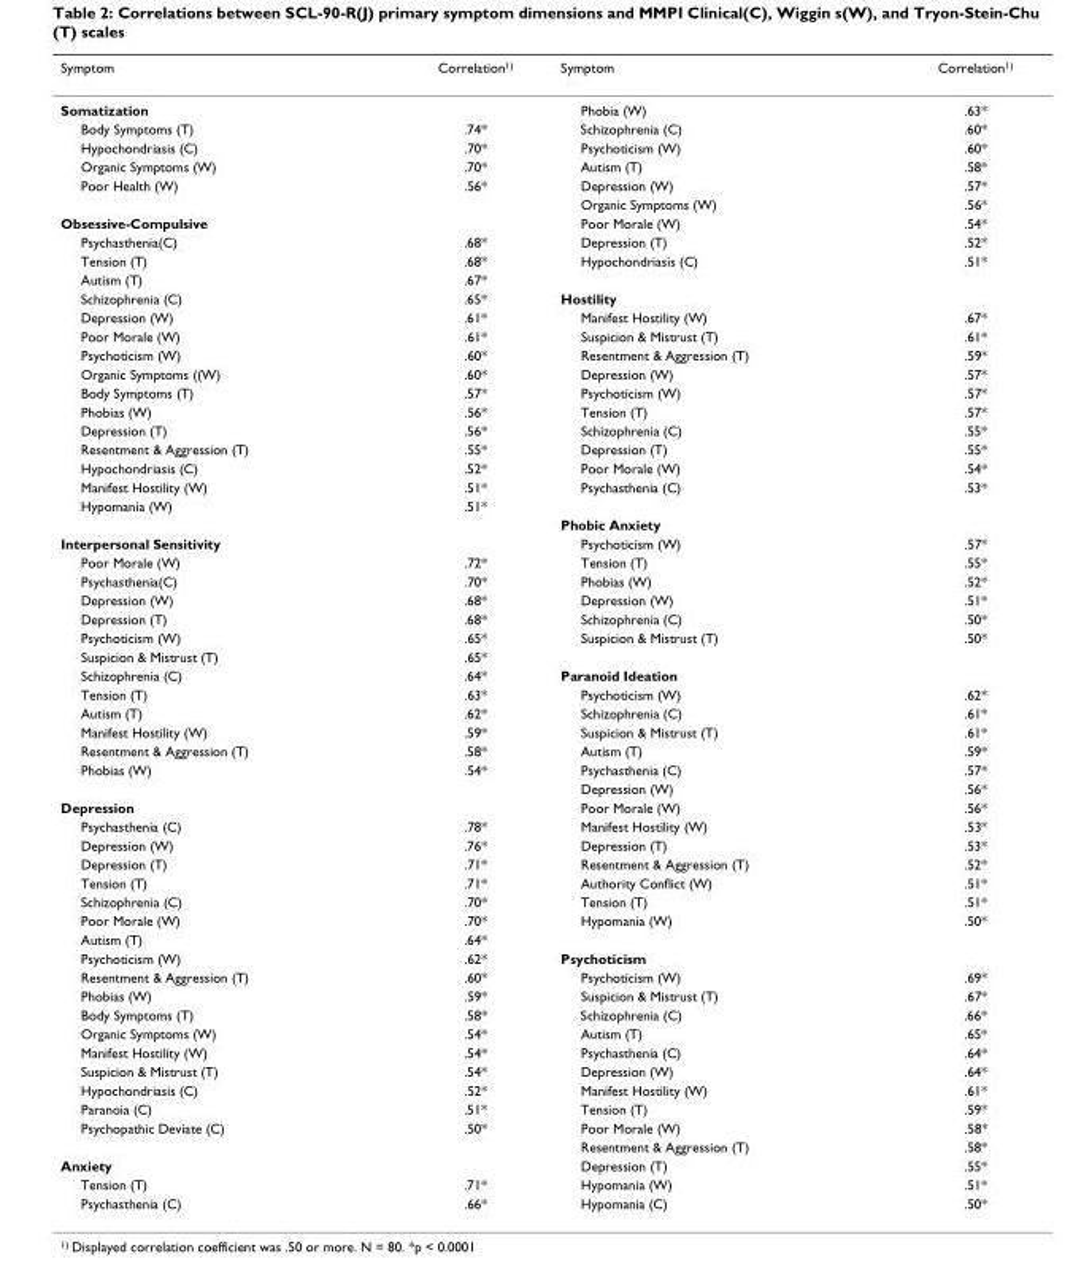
<table><thead><tr><td>Symptom</td><td>Correlation<sup>1)</sup></td><td>Symptom</td><td>Correlation<sup>1)</sup></td></tr></thead><tbody><tr><td>Somatization</td><td></td><td>Phobia (W)</td><td>.63*</td></tr><tr><td>Body Symptoms (T)</td><td>.74*</td><td>Schizophrenia (C)</td><td>.60*</td></tr><tr><td>Hypochondriasis (C)</td><td>.70*</td><td>Psychoticism (W)</td><td>.60*</td></tr><tr><td>Organic Symptoms (W)</td><td>.70*</td><td>Autism (T)</td><td>.58*</td></tr><tr><td rowspan="2">Poor Health (W)</td><td>.56*</td><td>Depression (W)</td><td>.57*</td></tr><tr><td></td><td>Organic Symptoms (W)</td><td>.56*</td></tr><tr><td>Obsessive-Compulsive</td><td></td><td>Poor Morale (W)</td><td>.54*</td></tr><tr><td>Psychasthenia(C)</td><td>.68*</td><td>Depression (T)</td><td>.52*</td></tr><tr><td>Tension (T)</td><td>.68*</td><td>Hypochondriasis (C)</td><td>.51*</td></tr><tr><td>Autism (T)</td><td>.67*</td><td></td><td></td></tr><tr><td>Schizophrenia (C)</td><td>.65*</td><td>Hostility</td><td></td></tr><tr><td>Depression (W)</td><td>.61*</td><td>Manifest Hostility (W)</td><td>.67*</td></tr><tr><td>Poor Morale (W)</td><td>.61*</td><td>Suspicion &amp; Mistrust (T)</td><td>.61*</td></tr><tr><td>Psychoticism (W)</td><td>.60*</td><td>Resentment &amp; Aggression (T)</td><td>.59*</td></tr><tr><td>Organic Symptoms ((W)</td><td>.60*</td><td>Depression (W)</td><td>.57*</td></tr><tr><td>Body Symptoms (T)</td><td>.57*</td><td>Psychoticism (W)</td><td>.57*</td></tr><tr><td>Phobias (W)</td><td>.56*</td><td>Tension (T)</td><td>.57*</td></tr><tr><td>Depression (T)</td><td>.56*</td><td>Schizophrenia (C)</td><td>.55*</td></tr><tr><td>Resentment &amp; Aggression (T)</td><td>.55*</td><td>Depression (T)</td><td>.55*</td></tr><tr><td>Hypochondriasis (C)</td><td>.52*</td><td>Poor Morale (W)</td><td>.54*</td></tr><tr><td>Manifest Hostility (W)</td><td>.51*</td><td>Psychasthenia (C)</td><td>.53*</td></tr><tr><td rowspan="2">Hypomania (W)</td><td>.51*</td><td></td><td></td></tr><tr><td></td><td>Phobic Anxiety</td><td></td></tr><tr><td>Interpersonal Sensitivity</td><td></td><td>Psychoticism (W)</td><td>.57*</td></tr><tr><td>Poor Morale (W)</td><td>.72*</td><td>Tension (T)</td><td>.55*</td></tr><tr><td>Psychasthenia(C)</td><td>.70*</td><td>Phobias (W)</td><td>.52*</td></tr><tr><td>Depression (W)</td><td>.68*</td><td>Depression (W)</td><td>.51*</td></tr><tr><td>Depression (T)</td><td>.68*</td><td>Schizophrenia (C)</td><td>.50*</td></tr><tr><td>Psychoticism (W)</td><td>.65*</td><td>Suspicion &amp; Mistrust (T)</td><td>.50*</td></tr><tr><td>Suspicion &amp; Mistrust (T)</td><td>.65*</td><td></td><td></td></tr><tr><td>Schizophrenia (C)</td><td>.64*</td><td>Paranoid Ideation</td><td></td></tr><tr><td>Tension (T)</td><td>.63*</td><td>Psychoticism (W)</td><td>.62*</td></tr><tr><td>Autism (T)</td><td>.62*</td><td>Schizophrenia (C)</td><td>.61*</td></tr><tr><td>Manifest Hostility (W)</td><td>.59*</td><td>Suspicion &amp; Mistrust (T)</td><td>.61*</td></tr><tr><td>Resentment &amp; Aggression (T)</td><td>.58*</td><td>Autism (T)</td><td>.59*</td></tr><tr><td rowspan="2">Phobias (W)</td><td>.54*</td><td>Psychasthenia (C)</td><td>.57*</td></tr><tr><td></td><td>Depression (W)</td><td>.56*</td></tr><tr><td>Depression</td><td></td><td>Poor Morale (W)</td><td>.56*</td></tr><tr><td>Psychasthenia (C)</td><td>.78*</td><td>Manifest Hostility (W)</td><td>.53*</td></tr><tr><td>Depression (W)</td><td>.76*</td><td>Depression (T)</td><td>.53*</td></tr><tr><td>Depression (T)</td><td>.71*</td><td>Resentment &amp; Aggression (T)</td><td>.52*</td></tr><tr><td>Tension (T)</td><td>.71*</td><td>Authority Conflict (W)</td><td>.51*</td></tr><tr><td>Schizophrenia (C)</td><td>.70*</td><td>Tension (T)</td><td>.51*</td></tr><tr><td>Poor Morale (W)</td><td>.70*</td><td>Hypomania (W)</td><td>.50*</td></tr><tr><td>Autism (T)</td><td>.64*</td><td></td><td></td></tr><tr><td>Psychoticism (W)</td><td>.62*</td><td>Psychoticism</td><td></td></tr><tr><td>Resentment &amp; Aggression (T)</td><td>.60*</td><td>Psychoticism (W)</td><td>.69*</td></tr><tr><td>Phobias (W)</td><td>.59*</td><td>Suspicion &amp; Mistrust (T)</td><td>.67*</td></tr><tr><td>Body Symptoms (T)</td><td>.58*</td><td>Schizophrenia (C)</td><td>.66*</td></tr><tr><td>Organic Symptoms (W)</td><td>.54*</td><td>Autism (T)</td><td>.65*</td></tr><tr><td>Manifest Hostility (W)</td><td>.54*</td><td>Psychasthenia (C)</td><td>.64*</td></tr><tr><td>Suspicion &amp; Mistrust (T)</td><td>.54*</td><td>Depression (W)</td><td>.64*</td></tr><tr><td>Hypochondriasis (C)</td><td>.52*</td><td>Manifest Hostility (W)</td><td>.61*</td></tr><tr><td>Paranoia (C)</td><td>.51*</td><td>Tension (T)</td><td>.59*</td></tr><tr><td rowspan="2">Psychopathic Deviate (C)</td><td>.50*</td><td>Poor Morale (W)</td><td>.58*</td></tr><tr><td></td><td>Resentment &amp; Aggression (T)</td><td>.58*</td></tr><tr><td>Anxiety</td><td></td><td>Depression (T)</td><td>.55*</td></tr><tr><td>Tension (T)</td><td>.71*</td><td>Hypomania (W)</td><td>.51*</td></tr><tr><td>Psychasthenia (C)</td><td>.66*</td><td>Hypomania (C)</td><td>.50*</td></tr></tbody></table>